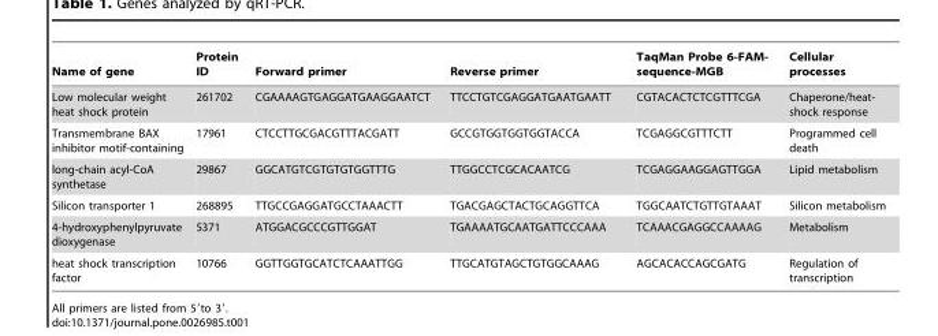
<table><thead><tr><td>Name of gene</td><td>Protein ID</td><td>Forward primer</td><td>Reverse primer</td><td>TaqMan Probe 6-FAM- sequence-MGB</td><td>Cellular processes</td></tr></thead><tbody><tr><td>Low molecular weight heat shock protein</td><td>261702</td><td>CGAAAAGTGAGGATGAAGGAATCT</td><td>TTCCTGTCGAGGATGAATGAATT</td><td>CGTACACTCTCGTTTCGA</td><td>Chaperone/heat- shock response</td></tr><tr><td>Transmembrane BAX inhibitor motif-containing</td><td>17961</td><td>CTCCTTGCGACGTTTACGATT</td><td>GCCGTGGTGGTGGTACCA</td><td>TCGAGGCGTTTCTT</td><td>Programmed cell death</td></tr><tr><td>long-chain acyl-CoA synthetase</td><td>29867</td><td>GGCATGTCGTGTGTGGTTTG</td><td>TTGGCCTCGCACAATCG</td><td>TCGAGGAAGGAGTTGGA</td><td>Lipid metabolism</td></tr><tr><td>Silicon transporter 1</td><td>268895</td><td>TTGCCGAGGATGCCTAAACTT</td><td>TGACGAGCTACTGCAGGTTCA</td><td>TGGCAATCTGTTGTAAAT</td><td>Silicon metabolism</td></tr><tr><td>4-hydroxyphenylpyruvate dioxygenase</td><td>5371</td><td>ATGGACGCCCGTTGGAT</td><td>TGAAAATGCAATGATTCCCAAA</td><td>TCAAACGAGGCCAAAAG</td><td>Metabolism</td></tr><tr><td>heat shock transcription factor</td><td>10766</td><td>GGTTGGTGCATCTCAAATTGG</td><td>TTGCATGTAGCTGTGGCAAAG</td><td>AGCACACCAGCGATG</td><td>Regulation of transcription</td></tr></tbody></table>